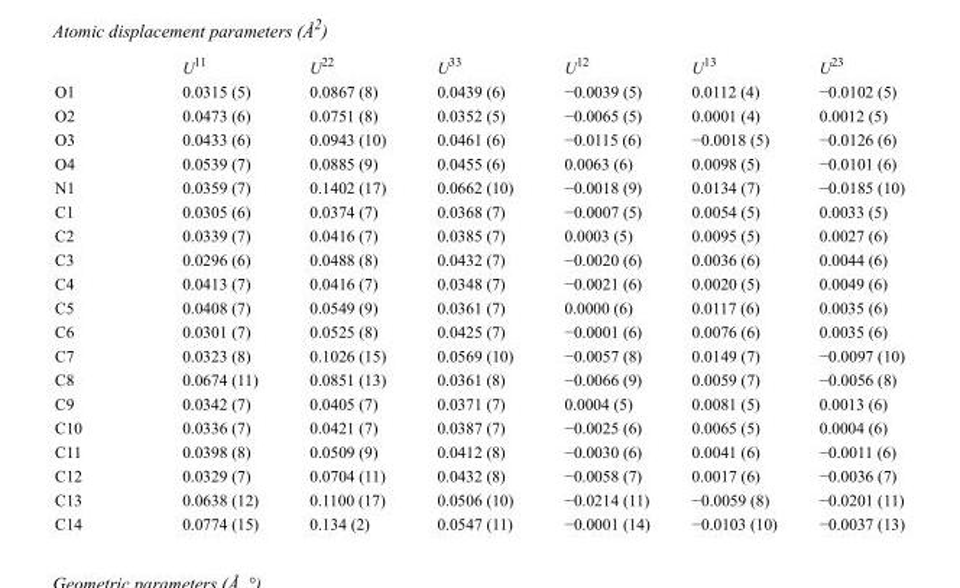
<table><thead><tr><td></td><td>U<sup>11</sup></td><td>U<sup>22</sup></td><td>U<sup>33</sup></td><td>U<sup>12</sup></td><td>U<sup>13</sup></td><td>U<sup>23</sup></td></tr></thead><tbody><tr><td>O1</td><td>0.0315 (5)</td><td>0.0867 (8)</td><td>0.0439 (6)</td><td>−0.0039 (5)</td><td>0.0112 (4)</td><td>−0.0102 (5)</td></tr><tr><td>O2</td><td>0.0473 (6)</td><td>0.0751 (8)</td><td>0.0352 (5)</td><td>−0.0065 (5)</td><td>0.0001 (4)</td><td>0.0012 (5)</td></tr><tr><td>O3</td><td>0.0433 (6)</td><td>0.0943 (10)</td><td>0.0461 (6)</td><td>−0.0115 (6)</td><td>−0.0018 (5)</td><td>−0.0126 (6)</td></tr><tr><td>O4</td><td>0.0539 (7)</td><td>0.0885 (9)</td><td>0.0455 (6)</td><td>0.0063 (6)</td><td>0.0098 (5)</td><td>−0.0101 (6)</td></tr><tr><td>N1</td><td>0.0359 (7)</td><td>0.1402 (17)</td><td>0.0662 (10)</td><td>−0.0018 (9)</td><td>0.0134 (7)</td><td>−0.0185 (10)</td></tr><tr><td>C1</td><td>0.0305 (6)</td><td>0.0374 (7)</td><td>0.0368 (7)</td><td>−0.0007 (5)</td><td>0.0054 (5)</td><td>0.0033 (5)</td></tr><tr><td>C2</td><td>0.0339 (7)</td><td>0.0416 (7)</td><td>0.0385 (7)</td><td>0.0003 (5)</td><td>0.0095 (5)</td><td>0.0027 (6)</td></tr><tr><td>C3</td><td>0.0296 (6)</td><td>0.0488 (8)</td><td>0.0432 (7)</td><td>−0.0020 (6)</td><td>0.0036 (6)</td><td>0.0044 (6)</td></tr><tr><td>C4</td><td>0.0413 (7)</td><td>0.0416 (7)</td><td>0.0348 (7)</td><td>−0.0021 (6)</td><td>0.0020 (5)</td><td>0.0049 (6)</td></tr><tr><td>C5</td><td>0.0408 (7)</td><td>0.0549 (9)</td><td>0.0361 (7)</td><td>0.0000 (6)</td><td>0.0117 (6)</td><td>0.0035 (6)</td></tr><tr><td>C6</td><td>0.0301 (7)</td><td>0.0525 (8)</td><td>0.0425 (7)</td><td>−0.0001 (6)</td><td>0.0076 (6)</td><td>0.0035 (6)</td></tr><tr><td>C7</td><td>0.0323 (8)</td><td>0.1026 (15)</td><td>0.0569 (10)</td><td>−0.0057 (8)</td><td>0.0149 (7)</td><td>−0.0097 (10)</td></tr><tr><td>C8</td><td>0.0674 (11)</td><td>0.0851 (13)</td><td>0.0361 (8)</td><td>−0.0066 (9)</td><td>0.0059 (7)</td><td>−0.0056 (8)</td></tr><tr><td>C9</td><td>0.0342 (7)</td><td>0.0405 (7)</td><td>0.0371 (7)</td><td>0.0004 (5)</td><td>0.0081 (5)</td><td>0.0013 (6)</td></tr><tr><td>C10</td><td>0.0336 (7)</td><td>0.0421 (7)</td><td>0.0387 (7)</td><td>−0.0025 (6)</td><td>0.0065 (5)</td><td>0.0004 (6)</td></tr><tr><td>C11</td><td>0.0398 (8)</td><td>0.0509 (9)</td><td>0.0412 (8)</td><td>−0.0030 (6)</td><td>0.0041 (6)</td><td>−0.0011 (6)</td></tr><tr><td>C12</td><td>0.0329 (7)</td><td>0.0704 (11)</td><td>0.0432 (8)</td><td>−0.0058 (7)</td><td>0.0017 (6)</td><td>−0.0036 (7)</td></tr><tr><td>C13</td><td>0.0638 (12)</td><td>0.1100 (17)</td><td>0.0506 (10)</td><td>−0.0214 (11)</td><td>−0.0059 (8)</td><td>−0.0201 (11)</td></tr><tr><td>C14</td><td>0.0774 (15)</td><td>0.134 (2)</td><td>0.0547 (11)</td><td>−0.0001 (14)</td><td>−0.0103 (10)</td><td>−0.0037 (13)</td></tr></tbody></table>